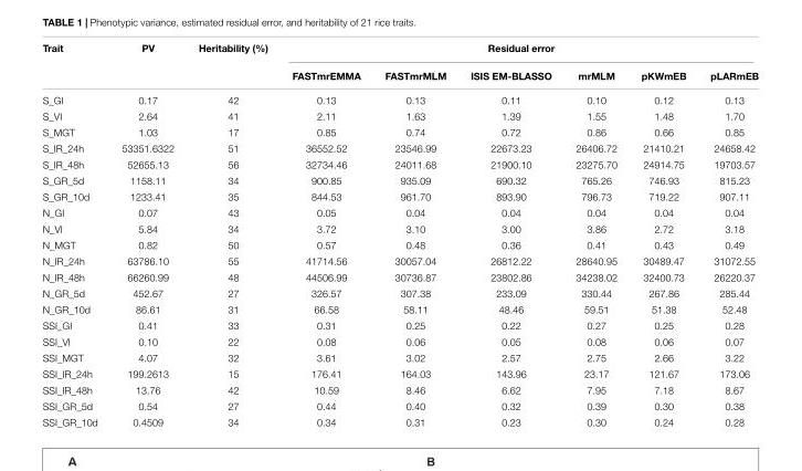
<table><thead><tr><td rowspan="2">Trait</td><td rowspan="2">PV</td><td rowspan="2">Heritability (%)</td><td colspan="6">Residual error</td></tr><tr><td>FASTmrEMMA</td><td>FASTmrMLM</td><td>ISIS EM-BLASSO</td><td>mrMLM</td><td>pKWmEB</td><td>pLARmEB</td></tr></thead><tbody><tr><td>S_GI</td><td>0.17</td><td>42</td><td>0.13</td><td>0.13</td><td>0.11</td><td>0.10</td><td>0.12</td><td>0.13</td></tr><tr><td>S_VI</td><td>2.64</td><td>41</td><td>2.11</td><td>1.63</td><td>1.39</td><td>1.55</td><td>1.48</td><td>1.70</td></tr><tr><td>S_MGT</td><td>1.03</td><td>17</td><td>0.85</td><td>0.74</td><td>0.72</td><td>0.86</td><td>0.66</td><td>0.85</td></tr><tr><td>S_IR_24h</td><td>53351.6322</td><td>51</td><td>36552.52</td><td>23546.99</td><td>22673.23</td><td>26406.72</td><td>21410.21</td><td>24658.42</td></tr><tr><td>S_IR_48h</td><td>52655.13</td><td>56</td><td>32734.46</td><td>24011.68</td><td>21900.10</td><td>23275.70</td><td>24914.75</td><td>19703.57</td></tr><tr><td>S_GR_5d</td><td>1158.11</td><td>34</td><td>900.85</td><td>935.09</td><td>690.32</td><td>765.26</td><td>746.93</td><td>815.23</td></tr><tr><td>S_GR_10d</td><td>1233.41</td><td>35</td><td>844.53</td><td>961.70</td><td>893.90</td><td>796.73</td><td>719.22</td><td>907.11</td></tr><tr><td>N_GI</td><td>0.07</td><td>43</td><td>0.05</td><td>0.04</td><td>0.04</td><td>0.04</td><td>0.04</td><td>0.04</td></tr><tr><td>N_VI</td><td>5.84</td><td>34</td><td>3.72</td><td>3.10</td><td>3.00</td><td>3.86</td><td>2.72</td><td>3.18</td></tr><tr><td>N_MGT</td><td>0.82</td><td>50</td><td>0.57</td><td>0.48</td><td>0.36</td><td>0.41</td><td>0.43</td><td>0.49</td></tr><tr><td>N_IR_24h</td><td>63786.10</td><td>55</td><td>41714.56</td><td>30057.04</td><td>26812.22</td><td>28640.95</td><td>30489.47</td><td>31072.55</td></tr><tr><td>N_IR_48h</td><td>66260.99</td><td>48</td><td>44506.99</td><td>30736.87</td><td>23802.86</td><td>34238.02</td><td>32400.73</td><td>26220.37</td></tr><tr><td>N_GR_5d</td><td>452.67</td><td>27</td><td>326.57</td><td>307.38</td><td>233.09</td><td>330.44</td><td>267.86</td><td>285.44</td></tr><tr><td>N_GR_10d</td><td>86.61</td><td>31</td><td>66.58</td><td>58.11</td><td>48.46</td><td>59.51</td><td>51.38</td><td>52.48</td></tr><tr><td>SSI_GI</td><td>0.41</td><td>33</td><td>0.31</td><td>0.25</td><td>0.22</td><td>0.27</td><td>0.25</td><td>0.28</td></tr><tr><td>SSI_VI</td><td>0.10</td><td>22</td><td>0.08</td><td>0.06</td><td>0.05</td><td>0.08</td><td>0.06</td><td>0.07</td></tr><tr><td>SSI_MGT</td><td>4.07</td><td>32</td><td>3.61</td><td>3.02</td><td>2.57</td><td>2.75</td><td>2.66</td><td>3.22</td></tr><tr><td>SSI_IR_24h</td><td>199.2613</td><td>15</td><td>176.41</td><td>164.03</td><td>143.96</td><td>23.17</td><td>121.67</td><td>173.06</td></tr><tr><td>SSI_IR_48h</td><td>13.76</td><td>42</td><td>10.59</td><td>8.46</td><td>6.62</td><td>7.95</td><td>7.18</td><td>8.67</td></tr><tr><td>SSI_GR_5d</td><td>0.54</td><td>27</td><td>0.44</td><td>0.40</td><td>0.32</td><td>0.39</td><td>0.30</td><td>0.38</td></tr><tr><td>SSI_GR_10d</td><td>0.4509</td><td>34</td><td>0.34</td><td>0.31</td><td>0.23</td><td>0.30</td><td>0.24</td><td>0.28</td></tr></tbody></table>